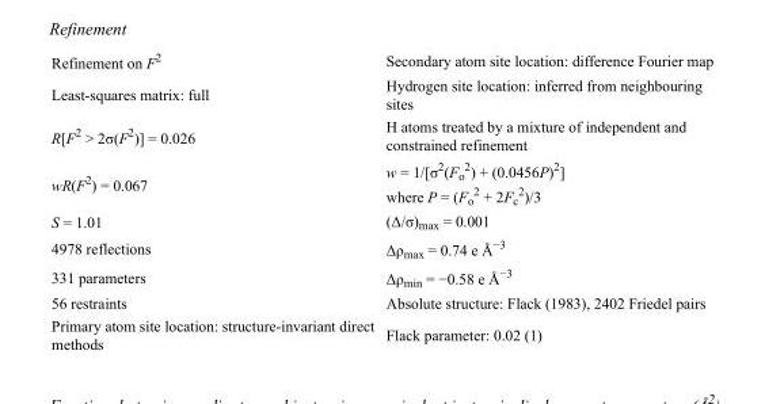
<table><tbody><tr><td>Refinement on F<sup>2</sup></td><td>Secondary atom site location: difference Fourier map</td></tr><tr><td>Least-squares matrix: full</td><td>Hydrogen site location: inferred from neighbouring sites</td></tr><tr><td>R[F<sup>2</sup> &gt; 2σ(F<sup>2</sup>)] = 0.026</td><td>H atoms treated by a mixture of independent and constrained refinement</td></tr><tr><td>wR(F<sup>2</sup>) = 0.067</td><td>w = 1/[σ<sup>2</sup>(F<sub>o</sub> <sup>2</sup>) + (0.0456P)<sup>2</sup>] where P = (F<sub>o</sub> <sup>2</sup> + 2F<sub>c</sub> <sup>2</sup>)/3</td></tr><tr><td>S = 1.01</td><td>(Δ/σ)<sub>max</sub> = 0.001</td></tr><tr><td>4978 reflections</td><td>Δρ<sub>max</sub> = 0.74 e Å<sup>−3</sup></td></tr><tr><td>331 parameters</td><td>Δρ<sub>min</sub> = −0.58 e Å<sup>−3</sup></td></tr><tr><td>56 restraints</td><td>Absolute structure: Flack (1983), 2402 Friedel pairs</td></tr><tr><td>Primary atom site location: structure-invariant direct methods</td><td>Flack parameter: 0.02 (1)</td></tr></tbody></table>